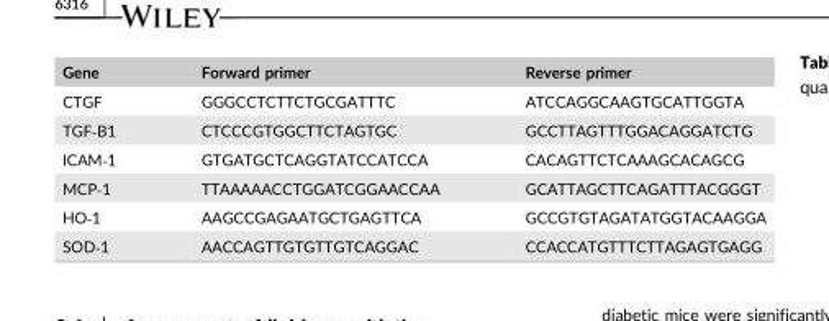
<table><thead><tr><td>Gene</td><td>Forward primer</td><td>Reverse primer</td></tr></thead><tbody><tr><td>CTGF</td><td>GGGCCTCTTCTGCGATTTC</td><td>ATCCAGGCAAGTGCATTGGTA</td></tr><tr><td>TGF‐B1</td><td>CTCCCGTGGCTTCTAGTGC</td><td>GCCTTAGTTTGGACAGGATCTG</td></tr><tr><td>ICAM‐1</td><td>GTGATGCTCAGGTATCCATCCA</td><td>CACAGTTCTCAAAGCACAGCG</td></tr><tr><td>MCP‐1</td><td>TTAAAAACCTGGATCGGAACCAA</td><td>GCATTAGCTTCAGATTTACGGGT</td></tr><tr><td>HO‐1</td><td>AAGCCGAGAATGCTGAGTTCA</td><td>GCCGTGTAGATATGGTACAAGGA</td></tr><tr><td>SOD‐1</td><td>AACCAGTTGTGTTGTCAGGAC</td><td>CCACCATGTTTCTTAGAGTGAGG</td></tr></tbody></table>